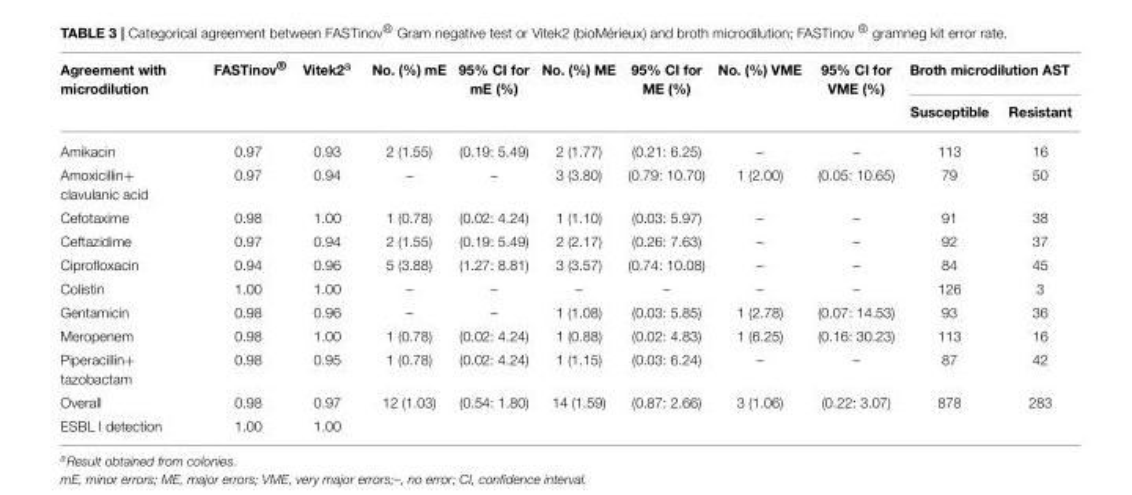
<table><thead><tr><td rowspan="2">Agreement with microdilution</td><td rowspan="2">FASTinov<sup>®</sup></td><td rowspan="2">Vitek2<sup>a</sup></td><td rowspan="2">No. (%) mE</td><td rowspan="2">95% CI for mE (%)</td><td rowspan="2">No. (%) ME</td><td rowspan="2">95% CI for ME (%)</td><td rowspan="2">No. (%) VME</td><td rowspan="2">95% CI for VME (%)</td><td colspan="2">Broth microdilution AST</td></tr><tr><td>Susceptible</td><td>Resistant</td></tr></thead><tbody><tr><td>Amikacin</td><td>0.97</td><td>0.93</td><td>2 (1.55)</td><td>(0.19: 5.49)</td><td>2 (1.77)</td><td>(0.21: 6.25)</td><td>–</td><td>–</td><td>113</td><td>16</td></tr><tr><td>Amoxicillin+ clavulanic acid</td><td>0.97</td><td>0.94</td><td>–</td><td>–</td><td>3 (3.80)</td><td>(0.79: 10.70)</td><td>1 (2.00)</td><td>(0.05: 10.65)</td><td>79</td><td>50</td></tr><tr><td>Cefotaxime</td><td>0.98</td><td>1.00</td><td>1 (0.78)</td><td>(0.02: 4.24)</td><td>1 (1.10)</td><td>(0.03: 5.97)</td><td>–</td><td>–</td><td>91</td><td>38</td></tr><tr><td>Ceftazidime</td><td>0.97</td><td>0.94</td><td>2 (1.55)</td><td>(0.19: 5.49)</td><td>2 (2.17)</td><td>(0.26: 7.63)</td><td>–</td><td>–</td><td>92</td><td>37</td></tr><tr><td>Ciprofloxacin</td><td>0.94</td><td>0.96</td><td>5 (3.88)</td><td>(1.27: 8.81)</td><td>3 (3.57)</td><td>(0.74: 10.08)</td><td>–</td><td>–</td><td>84</td><td>45</td></tr><tr><td>Colistin</td><td>1.00</td><td>1.00</td><td>–</td><td>–</td><td>–</td><td>–</td><td>–</td><td>–</td><td>126</td><td>3</td></tr><tr><td>Gentamicin</td><td>0.98</td><td>0.96</td><td>–</td><td>–</td><td>1 (1.08)</td><td>(0.03: 5.85)</td><td>1 (2.78)</td><td>(0.07: 14.53)</td><td>93</td><td>36</td></tr><tr><td>Meropenem</td><td>0.98</td><td>1.00</td><td>1 (0.78)</td><td>(0.02: 4.24)</td><td>1 (0.88)</td><td>(0.02: 4.83)</td><td>1 (6.25)</td><td>(0.16: 30.23)</td><td>113</td><td>16</td></tr><tr><td>Piperacillin+ tazobactam</td><td>0.98</td><td>0.95</td><td>1 (0.78)</td><td>(0.02: 4.24)</td><td>1 (1.15)</td><td>(0.03: 6.24)</td><td>–</td><td>–</td><td>87</td><td>42</td></tr><tr><td>Overall</td><td>0.98</td><td>0.97</td><td>12 (1.03)</td><td>(0.54: 1.80)</td><td>14 (1.59)</td><td>(0.87: 2.66)</td><td>3 (1.06)</td><td>(0.22: 3.07)</td><td>878</td><td>283</td></tr><tr><td>ESBL I detection</td><td>1.00</td><td>1.00</td><td></td><td></td><td></td><td></td><td></td><td></td><td></td><td></td></tr></tbody></table>